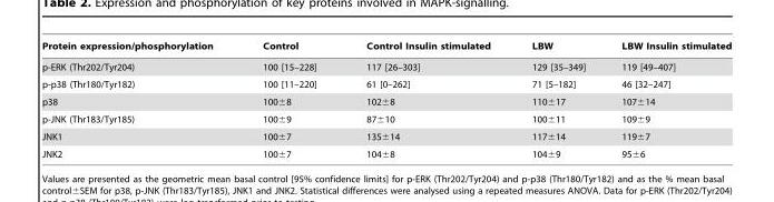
<table><thead><tr><td>Protein expression/phosphorylation</td><td>Control</td><td>Control Insulin stimulated</td><td>LBW</td><td>LBW Insulin stimulated</td></tr></thead><tbody><tr><td>p-ERK (Thr202/Tyr204)</td><td>100 [15–228]</td><td>117 [26–303]</td><td>129 [35–349]</td><td>119 [49–407]</td></tr><tr><td>p-p38 (Thr180/Tyr182)</td><td>100 [11–220]</td><td>61 [0–262]</td><td>71 [5–182]</td><td>46 [32–247]</td></tr><tr><td>p38</td><td>100±8</td><td>102±8</td><td>110±17</td><td>107±14</td></tr><tr><td>p-JNK (Thr183/Tyr185)</td><td>100±9</td><td>87±10</td><td>100±11</td><td>109±9</td></tr><tr><td>JNK1</td><td>100±7</td><td>135±14</td><td>117±14</td><td>119±7</td></tr><tr><td>JNK2</td><td>100±7</td><td>104±8</td><td>104±9</td><td>95±6</td></tr></tbody></table>